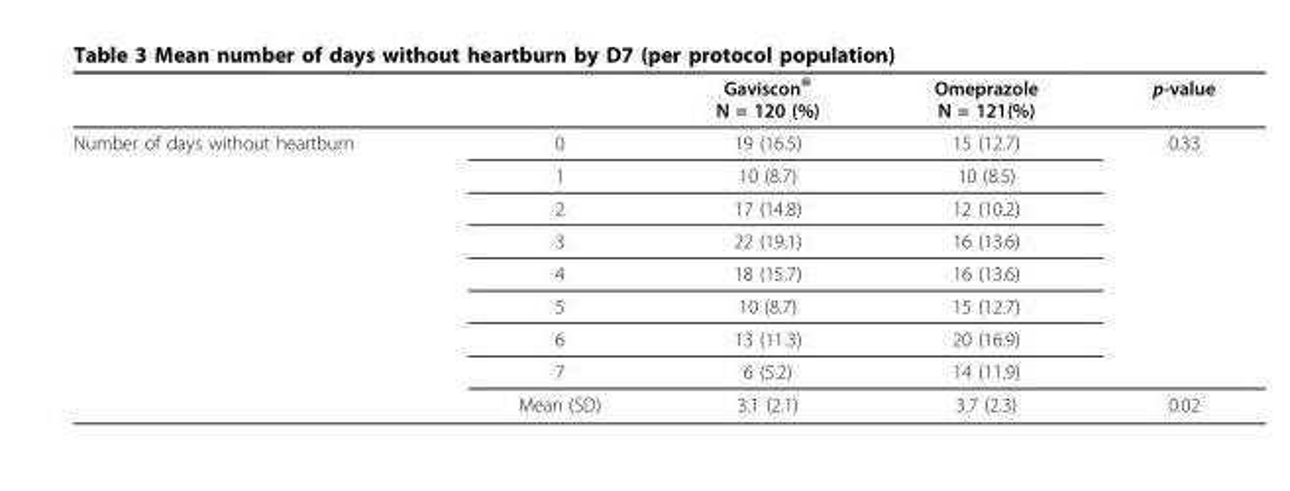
<table><thead><tr><td></td><td></td><td>Gaviscon<sup>®</sup> N = 120 (%)</td><td>Omeprazole N = 121(%)</td><td>p-value</td></tr></thead><tbody><tr><td rowspan="9">Number of days without heartburn</td><td>0</td><td>19 (16.5)</td><td>15 (12.7)</td><td>0.33</td></tr><tr><td>1</td><td>10 (8.7)</td><td>10 (8.5)</td><td></td></tr><tr><td>2</td><td>17 (14.8)</td><td>12 (10.2)</td><td></td></tr><tr><td>3</td><td>22 (19.1)</td><td>16 (13.6)</td><td></td></tr><tr><td>4</td><td>18 (15.7)</td><td>16 (13.6)</td><td></td></tr><tr><td>5</td><td>10 (8.7)</td><td>15 (12.7)</td><td></td></tr><tr><td>6</td><td>13 (11.3)</td><td>20 (16.9)</td><td></td></tr><tr><td>7</td><td>6 (5.2)</td><td>14 (11.9)</td><td></td></tr><tr><td>Mean (SD)</td><td>3.1 (2.1)</td><td>3.7 (2.3)</td><td>0.02</td></tr></tbody></table>